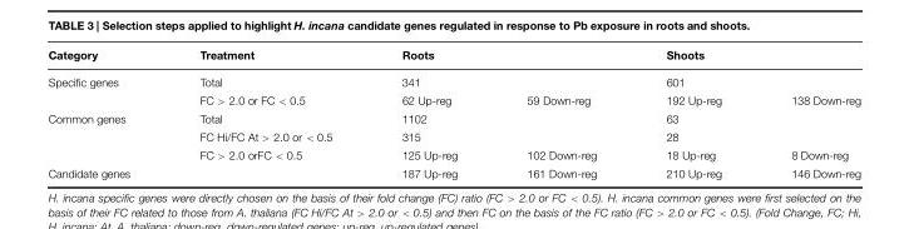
<table><thead><tr><td>Category</td><td>Treatment</td><td>Roots</td><td></td><td>Shoots</td><td></td></tr></thead><tbody><tr><td rowspan="2">Specific genes</td><td>Total</td><td>341</td><td></td><td>601</td><td></td></tr><tr><td>FC &gt; 2.0 or FC &lt; 0.5</td><td>62 Up-reg</td><td>59 Down-reg</td><td>192 Up-reg</td><td>138 Down-reg</td></tr><tr><td rowspan="3">Common genes</td><td>Total</td><td>1102</td><td></td><td>63</td><td></td></tr><tr><td>FC Hi/FC At &gt; 2.0 or &lt; 0.5</td><td>315</td><td></td><td>28</td><td></td></tr><tr><td>FC &gt; 2.0 orFC &lt; 0.5</td><td>125 Up-reg</td><td>102 Down-reg</td><td>18 Up-reg</td><td>8 Down-reg</td></tr><tr><td>Candidate genes</td><td></td><td>187 Up-reg</td><td>161 Down-reg</td><td>210 Up-reg</td><td>146 Down-reg</td></tr></tbody></table>